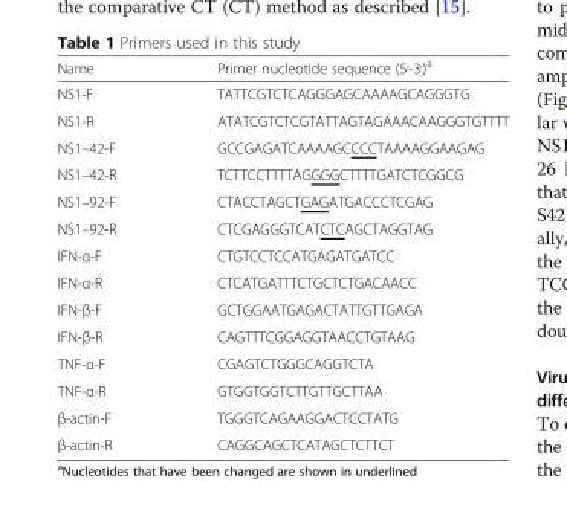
<table><thead><tr><td>Name</td><td>Primer nucleotide sequence (5<sup>,</sup>-3<sup>,</sup>)<sup>a</sup></td></tr></thead><tbody><tr><td>NS1-F</td><td>TATTCGTCTCAGGGAGCAAAAGCAGGGTG</td></tr><tr><td>NS1-R</td><td>ATATCGTCTCGTATTAGTAGAAACAAGGGTGTTTT</td></tr><tr><td>NS1–42-F</td><td>GCCGAGATCAAAAGCCCCTAAAAGGAAGAG</td></tr><tr><td>NS1–42-R</td><td>TCTTCCTTTTAGGGGCTTTTGATCTCGGCG</td></tr><tr><td>NS1–92-F</td><td>CTACCTAGCTGAGATGACCCTCGAG</td></tr><tr><td>NS1–92-R</td><td>CTCGAGGGTCATCTCAGCTAGGTAG</td></tr><tr><td>IFN-α-F</td><td>CTGTCCTCCATGAGATGATCC</td></tr><tr><td>IFN-α-R</td><td>CTCATGATTTCTGCTCTGACAACC</td></tr><tr><td>IFN-β-F</td><td>GCTGGAATGAGACTATTGTTGAGA</td></tr><tr><td>IFN-β-R</td><td>CAGTTTCGGAGGTAACCTGTAAG</td></tr><tr><td>TNF-α-F</td><td>CGAGTCTGGGCAGGTCTA</td></tr><tr><td>TNF-α-R</td><td>GTGGTGGTCTTGTTGCTTAA</td></tr><tr><td>β-actin-F</td><td>TGGGTCAGAAGGACTCCTATG</td></tr><tr><td>β-actin-R</td><td>CAGGCAGCTCATAGCTCTTCT</td></tr></tbody></table>